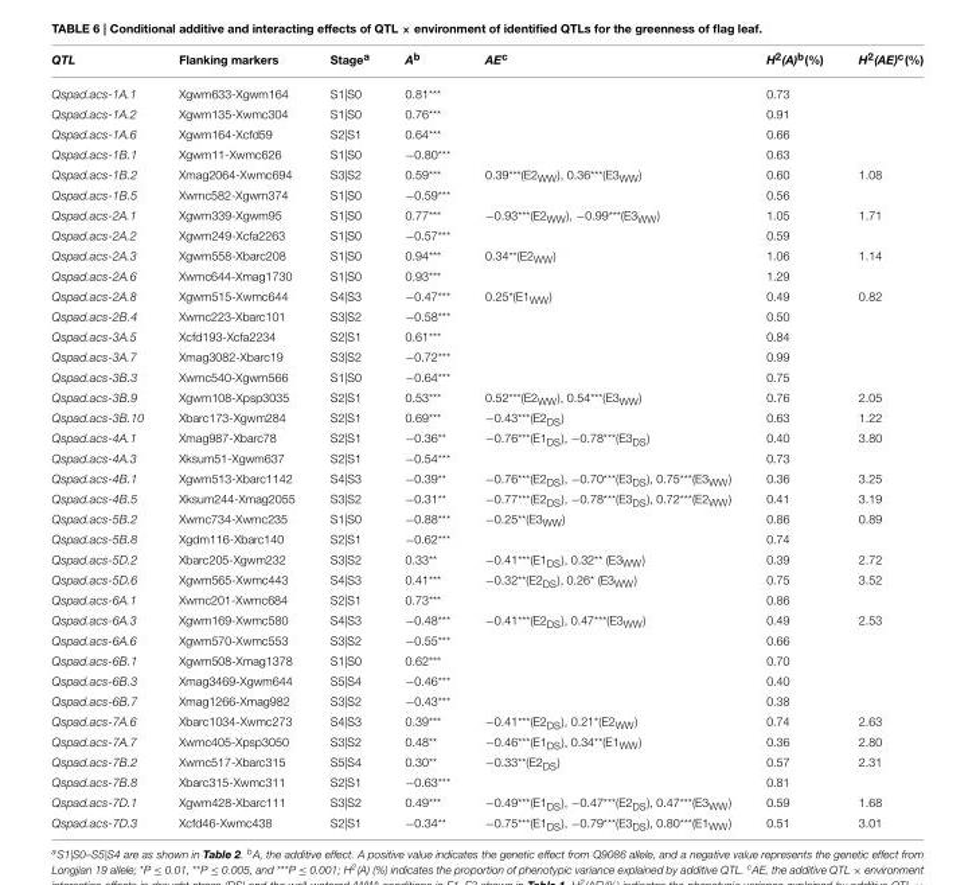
<table><thead><tr><td>QTL</td><td>Flanking markers</td><td>Stage<sup>a</sup></td><td>A<sup>b</sup></td><td>AE<sup>c</sup></td><td>H<sup>2</sup>(A)<sup>b</sup>(%)</td><td>H<sup>2</sup>(AE)<sup>c</sup>(%)</td></tr></thead><tbody><tr><td>Qspad.acs-1A.1</td><td>Xgwm633-Xgwm164</td><td>S1|S0</td><td>0.81***</td><td></td><td>0.73</td><td></td></tr><tr><td>Qspad.acs-1A.2</td><td>Xgwm135-Xwmc304</td><td>S1|S0</td><td>0.76***</td><td></td><td>0.91</td><td></td></tr><tr><td>Qspad.acs-1A.6</td><td>Xgwm164-Xcfd59</td><td>S2|S1</td><td>0.64***</td><td></td><td>0.66</td><td></td></tr><tr><td>Qspad.acs-1B.1</td><td>Xgwm11-Xwmc626</td><td>S1|S0</td><td>−0.80***</td><td></td><td>0.63</td><td></td></tr><tr><td>Qspad.acs-1B.2</td><td>Xmag2064-Xwmc694</td><td>S3|S2</td><td>0.59***</td><td>0.39***(E2<sub>WW</sub>), 0.36***(E3<sub>WW</sub>)</td><td>0.60</td><td>1.08</td></tr><tr><td>Qspad.acs-1B.5</td><td>Xwmc582-Xgwm374</td><td>S1|S0</td><td>−0.59***</td><td></td><td>0.56</td><td></td></tr><tr><td>Qspad.acs-2A.1</td><td>Xgwm339-Xgwm95</td><td>S1|S0</td><td>0.77***</td><td>−0.93***(E2<sub>WW</sub>), −0.99***(E3<sub>WW</sub>)</td><td>1.05</td><td>1.71</td></tr><tr><td>Qspad.acs-2A.2</td><td>Xgwm249-Xcfa2263</td><td>S1|S0</td><td>−0.57***</td><td></td><td>0.59</td><td></td></tr><tr><td>Qspad.acs-2A.3</td><td>Xgwm558-Xbarc208</td><td>S1|S0</td><td>0.94***</td><td>0.34**(E2<sub>WW</sub>)</td><td>1.06</td><td>1.14</td></tr><tr><td>Qspad.acs-2A.6</td><td>Xwmc644-Xmag1730</td><td>S1|S0</td><td>0.93***</td><td></td><td>1.29</td><td></td></tr><tr><td>Qspad.acs-2A.8</td><td>Xgwm515-Xwmc644</td><td>S4|S3</td><td>−0.47***</td><td>0.25*(E1<sub>WW</sub>)</td><td>0.49</td><td>0.82</td></tr><tr><td>Qspad.acs-2B.4</td><td>Xwmc223-Xbarc101</td><td>S3|S2</td><td>−0.58***</td><td></td><td>0.50</td><td></td></tr><tr><td>Qspad.acs-3A.5</td><td>Xcfd193-Xcfa2234</td><td>S2|S1</td><td>0.61***</td><td></td><td>0.84</td><td></td></tr><tr><td>Qspad.acs-3A.7</td><td>Xmag3082-Xbarc19</td><td>S3|S2</td><td>−0.72***</td><td></td><td>0.99</td><td></td></tr><tr><td>Qspad.acs-3B.3</td><td>Xwmc540-Xgwm566</td><td>S1|S0</td><td>−0.64***</td><td></td><td>0.75</td><td></td></tr><tr><td>Qspad.acs-3B.9</td><td>Xgwm108-Xpsp3035</td><td>S2|S1</td><td>0.53***</td><td>0.52***(E2<sub>WW</sub>), 0.54***(E3<sub>WW</sub>)</td><td>0.76</td><td>2.05</td></tr><tr><td>Qspad.acs-3B.10</td><td>Xbarc173-Xgwm284</td><td>S2|S1</td><td>0.69***</td><td>−0.43***(E2<sub>DS</sub>)</td><td>0.63</td><td>1.22</td></tr><tr><td>Qspad.acs-4A.1</td><td>Xmag987-Xbarc78</td><td>S2|S1</td><td>−0.36**</td><td>−0.76***(E1<sub>DS</sub>), −0.78***(E3<sub>DS</sub>)</td><td>0.40</td><td>3.80</td></tr><tr><td>Qspad.acs-4A.3</td><td>Xksum51-Xgwm637</td><td>S2|S1</td><td>−0.54***</td><td></td><td>0.73</td><td></td></tr><tr><td>Qspad.acs-4B.1</td><td>Xgwm513-Xbarc1142</td><td>S4|S3</td><td>−0.39**</td><td>−0.76***(E2<sub>DS</sub>), −0.70***(E3<sub>DS</sub>), 0.75***(E3<sub>WW</sub>)</td><td>0.36</td><td>3.25</td></tr><tr><td>Qspad.acs-4B.5</td><td>Xksum244-Xmag2055</td><td>S3|S2</td><td>−0.31**</td><td>−0.77***(E2<sub>DS</sub>), −0.78***(E3<sub>DS</sub>), 0.72***(E2<sub>WW</sub>)</td><td>0.41</td><td>3.19</td></tr><tr><td>Qspad.acs-5B.2</td><td>Xwmc734-Xwmc235</td><td>S1|S0</td><td>−0.88***</td><td>−0.25**(E3<sub>WW</sub>)</td><td>0.86</td><td>0.89</td></tr><tr><td>Qspad.acs-5B.8</td><td>Xgdm116-Xbarc140</td><td>S2|S1</td><td>−0.62***</td><td></td><td>0.74</td><td></td></tr><tr><td>Qspad.acs-5D.2</td><td>Xbarc205-Xgwm232</td><td>S3|S2</td><td>0.33**</td><td>−0.41***(E1<sub>DS</sub>), 0.32** (E3<sub>WW</sub>)</td><td>0.39</td><td>2.72</td></tr><tr><td>Qspad.acs-5D.6</td><td>Xgwm565-Xwmc443</td><td>S4|S3</td><td>0.41***</td><td>−0.32**(E2<sub>DS</sub>), 0.26* (E3<sub>WW</sub>)</td><td>0.75</td><td>3.52</td></tr><tr><td>Qspad.acs-6A.1</td><td>Xwmc201-Xwmc684</td><td>S2|S1</td><td>0.73***</td><td></td><td>0.86</td><td></td></tr><tr><td>Qspad.acs-6A.3</td><td>Xgwm169-Xwmc580</td><td>S4|S3</td><td>−0.48***</td><td>−0.41***(E2<sub>DS</sub>), 0.47***(E3<sub>WW</sub>)</td><td>0.49</td><td>2.53</td></tr><tr><td>Qspad.acs-6A.6</td><td>Xgwm570-Xwmc553</td><td>S3|S2</td><td>−0.55***</td><td></td><td>0.66</td><td></td></tr><tr><td>Qspad.acs-6B.1</td><td>Xgwm508-Xmag1378</td><td>S1|S0</td><td>0.62***</td><td></td><td>0.70</td><td></td></tr><tr><td>Qspad.acs-6B.3</td><td>Xmag3469-Xgwm644</td><td>S5|S4</td><td>−0.46***</td><td></td><td>0.40</td><td></td></tr><tr><td>Qspad.acs-6B.7</td><td>Xmag1266-Xmag982</td><td>S3|S2</td><td>−0.43***</td><td></td><td>0.38</td><td></td></tr><tr><td>Qspad.acs-7A.6</td><td>Xbarc1034-Xwmc273</td><td>S4|S3</td><td>0.39***</td><td>−0.41***(E2<sub>DS</sub>), 0.21*(E2<sub>WW</sub>)</td><td>0.74</td><td>2.63</td></tr><tr><td>Qspad.acs-7A.7</td><td>Xwmc405-Xpsp3050</td><td>S3|S2</td><td>0.48**</td><td>−0.46***(E1<sub>DS</sub>), 0.34**(E1<sub>WW</sub>)</td><td>0.36</td><td>2.80</td></tr><tr><td>Qspad.acs-7B.2</td><td>Xwmc517-Xbarc315</td><td>S5|S4</td><td>0.30**</td><td>−0.33**(E2<sub>DS</sub>)</td><td>0.57</td><td>2.31</td></tr><tr><td>Qspad.acs-7B.8</td><td>Xbarc315-Xwmc311</td><td>S2|S1</td><td>−0.63***</td><td></td><td>0.81</td><td></td></tr><tr><td>Qspad.acs-7D.1</td><td>Xgwm428-Xbarc111</td><td>S3|S2</td><td>0.49***</td><td>−0.49***(E1<sub>DS</sub>), −0.47***(E2<sub>DS</sub>), 0.47***(E3<sub>WW</sub>)</td><td>0.59</td><td>1.68</td></tr><tr><td>Qspad.acs-7D.3</td><td>Xcfd46-Xwmc438</td><td>S2|S1</td><td>−0.34**</td><td>−0.75***(E1<sub>DS</sub>), −0.79***(E3<sub>DS</sub>), 0.80***(E1<sub>WW</sub>)</td><td>0.51</td><td>3.01</td></tr></tbody></table>